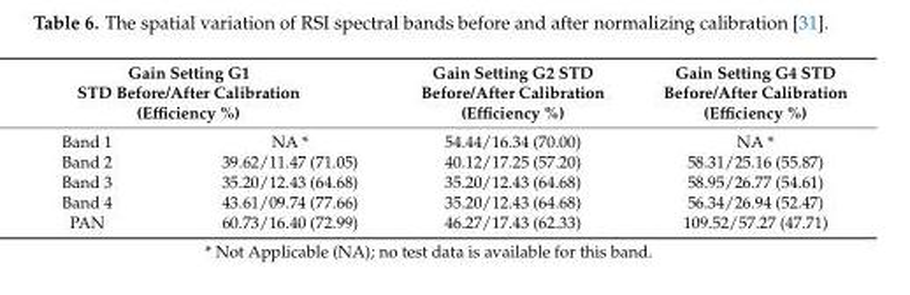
<table><thead><tr><td colspan="2">Gain Setting G1 STD Before/After Calibration (Efficiency %)</td><td rowspan="2">Gain Setting G2 STD Before/After Calibration (Efficiency %) 54.44/16.34 (70.00)</td><td rowspan="2">Gain Setting G4 STD Before/After Calibration (Efficiency %) NA *</td></tr><tr><td>Band 1</td><td>NA *</td></tr></thead><tbody><tr><td>Band 2</td><td>39.62/11.47 (71.05)</td><td>40.12/17.25 (57.20)</td><td>58.31/25.16 (55.87)</td></tr><tr><td>Band 3</td><td>35.20/12.43 (64.68)</td><td>35.20/12.43 (64.68)</td><td>58.95/26.77 (54.61)</td></tr><tr><td>Band 4</td><td>43.61/09.74 (77.66)</td><td>35.20/12.43 (64.68)</td><td>56.34/26.94 (52.47)</td></tr><tr><td>PAN</td><td>60.73/16.40 (72.99)</td><td>46.27/17.43 (62.33)</td><td>109.52/57.27 (47.71)</td></tr></tbody></table>